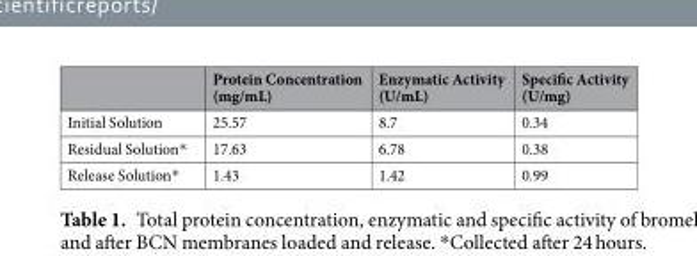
<table><thead><tr><td></td><td>Protein Concentration (mg/mL)</td><td>Enzymatic Activity (U/mL)</td><td>Specific Activity (U/mg)</td></tr></thead><tbody><tr><td>Initial Solution</td><td>25.57</td><td>8.7</td><td>0.34</td></tr><tr><td>Residual Solution*</td><td>17.63</td><td>6.78</td><td>0.38</td></tr><tr><td>Release Solution*</td><td>1.43</td><td>1.42</td><td>0.99</td></tr></tbody></table>